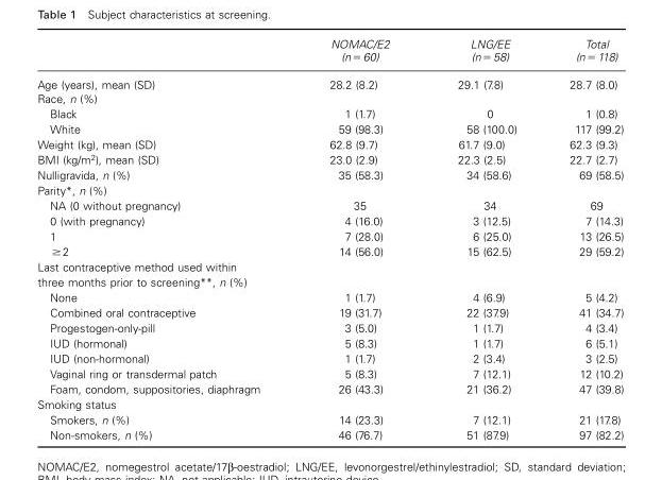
<table><thead><tr><td></td><td>NOMAC/E2 (n = 60)</td><td>LNG/EE (n = 58)</td><td>Total ( n = 118)</td></tr></thead><tbody><tr><td>Age (years), mean (SD)</td><td>28.2 (8.2)</td><td>29.1 (7.8)</td><td>28.7 (8.0)</td></tr><tr><td colspan="4">Race, n (%)</td></tr><tr><td>Black</td><td>1 (1.7)</td><td>0</td><td>1 (0.8)</td></tr><tr><td>White</td><td>59 (98.3)</td><td>58 (100.0)</td><td>117 (99.2)</td></tr><tr><td>Weight (kg), mean (SD)</td><td>62.8 (9.7)</td><td>61.7 (9.0)</td><td>62.3 (9.3)</td></tr><tr><td>BMI (kg/m <sup>2</sup> ), mean (SD)</td><td>23.0 (2.9)</td><td>22.3 (2.5)</td><td>22.7 (2.7)</td></tr><tr><td>Nulligravida, n (%)</td><td>35 (58.3)</td><td>34 (58.6)</td><td>69 (58.5)</td></tr><tr><td colspan="4">Parity * , n (%)</td></tr><tr><td>NA (0 without pregnancy)</td><td>35</td><td>34</td><td>69</td></tr><tr><td>0 (with pregnancy)</td><td>4 (16.0)</td><td>3 (12.5)</td><td>7 (14.3)</td></tr><tr><td>1</td><td>7 (28.0)</td><td>6 (25.0)</td><td>13 (26.5)</td></tr><tr><td>≥ 2</td><td>14 (56.0)</td><td>15 (62.5)</td><td>29 (59.2)</td></tr><tr><td colspan="4">Last contraceptive method used within three months prior to screening * * , n (%)</td></tr><tr><td>None</td><td>1 (1.7)</td><td>4 (6.9)</td><td>5 (4.2)</td></tr><tr><td>Combined oral contraceptive</td><td>19 (31.7)</td><td>22 (37.9)</td><td>41 (34.7)</td></tr><tr><td>Progestogen-only-pill</td><td>3 (5.0)</td><td>1 (1.7)</td><td>4 (3.4)</td></tr><tr><td>IUD (hormonal)</td><td>5 (8.3)</td><td>1 (1.7)</td><td>6 (5.1)</td></tr><tr><td>IUD (non-hormonal)</td><td>1 (1.7)</td><td>2 (3.4)</td><td>3 (2.5)</td></tr><tr><td>Vaginal ring or transdermal patch</td><td>5 (8.3)</td><td>7 (12.1)</td><td>12 (10.2)</td></tr><tr><td>Foam, condom, suppositories, diaphragm</td><td>26 (43.3)</td><td>21 (36.2)</td><td>47 (39.8)</td></tr><tr><td colspan="4">Smoking status</td></tr><tr><td>Smokers, n (%)</td><td>14 (23.3)</td><td>7 (12.1)</td><td>21 (17.8)</td></tr><tr><td>Non-smokers, n (%)</td><td>46 (76.7)</td><td>51 (87.9)</td><td>97 (82.2)</td></tr></tbody></table>